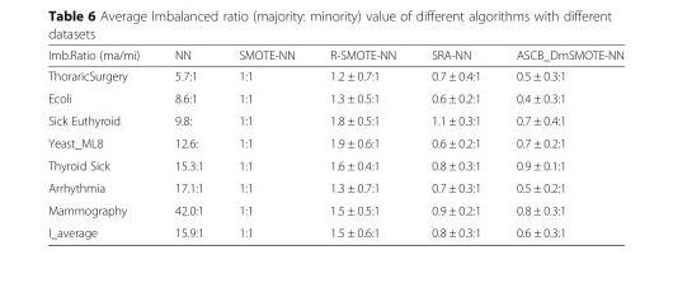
<table><thead><tr><td>Imb.Ratio (ma/mi)</td><td>NN</td><td>SMOTE-NN</td><td>R-SMOTE-NN</td><td>SRA-NN</td><td>ASCB_DmSMOTE-NN</td></tr></thead><tbody><tr><td>ThoraricSurgery</td><td>5.7:1</td><td>1:1</td><td>1.2 ± 0.7:1</td><td>0.7 ± 0.4:1</td><td>0.5 ± 0.3:1</td></tr><tr><td>Ecoli</td><td>8.6:1</td><td>1:1</td><td>1.3 ± 0.5:1</td><td>0.6 ± 0.2:1</td><td>0.4 ± 0.3:1</td></tr><tr><td>Sick Euthyroid</td><td>9.8:</td><td>1:1</td><td>1.8 ± 0.5:1</td><td>1.1 ± 0.3:1</td><td>0.7 ± 0.4:1</td></tr><tr><td>Yeast_ML8</td><td>12.6:</td><td>1:1</td><td>1.9 ± 0.6:1</td><td>0.6 ± 0.2:1</td><td>0.7 ± 0.2:1</td></tr><tr><td>Thyroid Sick</td><td>15.3:1</td><td>1:1</td><td>1.6 ± 0.4:1</td><td>0.8 ± 0.3:1</td><td>0.9 ± 0.1:1</td></tr><tr><td>Arrhythmia</td><td>17.1:1</td><td>1:1</td><td>1.3 ± 0.7:1</td><td>0.7 ± 0.3:1</td><td>0.5 ± 0.2:1</td></tr><tr><td>Mammography</td><td>42.0:1</td><td>1:1</td><td>1.5 ± 0.5:1</td><td>0.9 ± 0.2:1</td><td>0.8 ± 0.3:1</td></tr><tr><td>I_average</td><td>15.9:1</td><td>1:1</td><td>1.5 ± 0.6:1</td><td>0.8 ± 0.3:1</td><td>0.6 ± 0.3:1</td></tr></tbody></table>